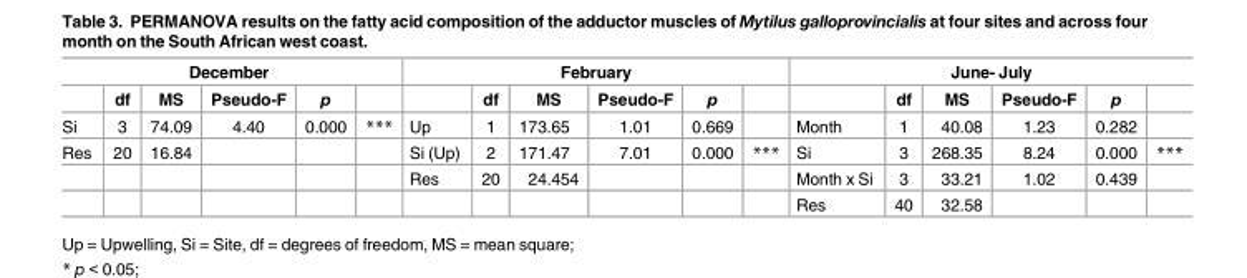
<table><thead><tr><td colspan="6">December</td><td colspan="6">February</td><td colspan="6">June- July</td></tr><tr><td></td><td>df</td><td>MS</td><td>Pseudo-F</td><td>p</td><td></td><td></td><td>df</td><td>MS</td><td>Pseudo-F</td><td>p</td><td></td><td></td><td>df</td><td>MS</td><td>Pseudo-F</td><td>p</td><td></td></tr></thead><tbody><tr><td>Si</td><td>3</td><td>74.09</td><td>4.40</td><td>0.000</td><td>***</td><td>Up</td><td>1</td><td>173.65</td><td>1.01</td><td>0.669</td><td></td><td>Month</td><td>1</td><td>40.08</td><td>1.23</td><td>0.282</td><td></td></tr><tr><td rowspan="3">Res</td><td>20</td><td>16.84</td><td></td><td></td><td></td><td>Si (Up)</td><td>2</td><td>171.47</td><td>7.01</td><td>0.000</td><td>***</td><td>Si</td><td>3</td><td>268.35</td><td>8.24</td><td>0.000</td><td>***</td></tr><tr><td></td><td></td><td></td><td></td><td></td><td>Res</td><td>20</td><td>24.454</td><td></td><td></td><td></td><td>Month x Si</td><td>3</td><td>33.21</td><td>1.02</td><td>0.439</td><td></td></tr><tr><td></td><td></td><td></td><td></td><td></td><td></td><td></td><td></td><td></td><td></td><td></td><td>Res</td><td>40</td><td>32.58</td><td></td><td></td><td></td></tr></tbody></table>